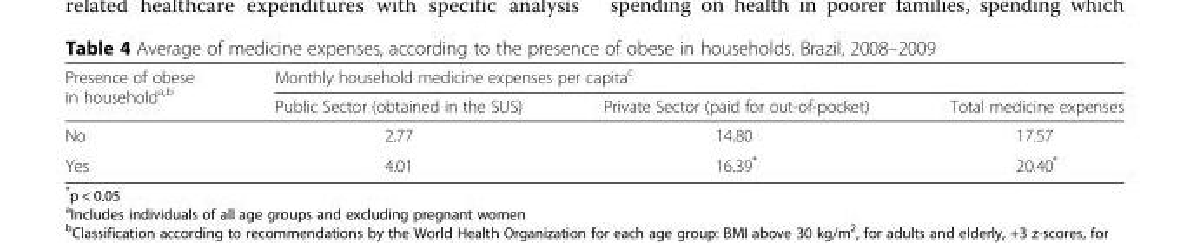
<table><thead><tr><td rowspan="2">Presence of obese in household<sup>a,b</sup></td><td colspan="3">Monthly household medicine expenses per capita<sup>c</sup></td></tr><tr><td>Public Sector (obtained in the SUS)</td><td>Private Sector (paid for out-of-pocket)</td><td>Total medicine expenses</td></tr></thead><tbody><tr><td>No</td><td>2.77</td><td>14.80</td><td>17.57</td></tr><tr><td>Yes</td><td>4.01</td><td>16.39*</td><td>20.40*</td></tr></tbody></table>